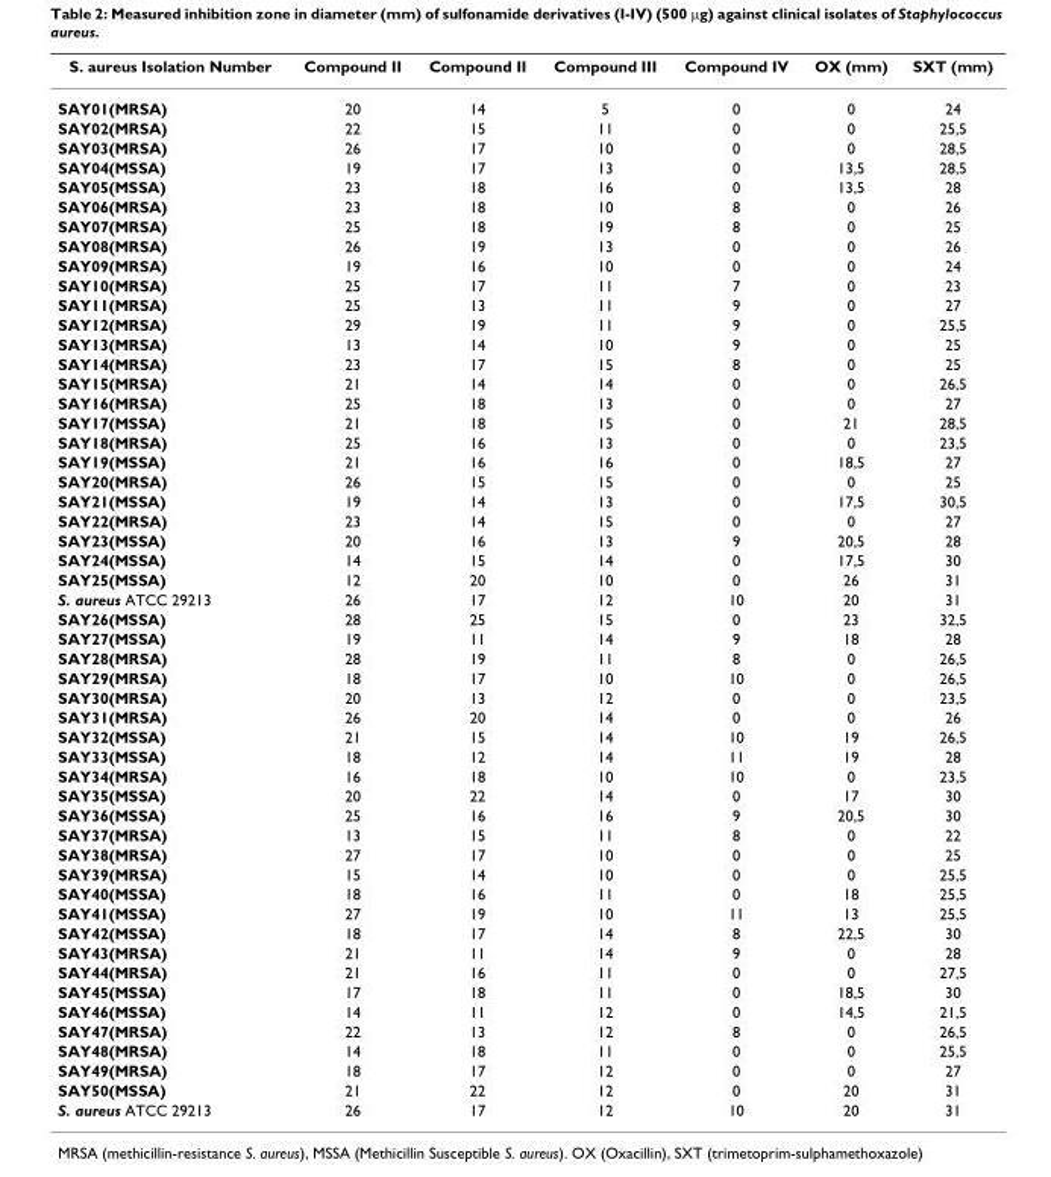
<table><thead><tr><td>S. aureus Isolation Number</td><td>Compound II</td><td>Compound II</td><td>Compound III</td><td>Compound IV</td><td>OX (mm)</td><td>SXT (mm)</td></tr></thead><tbody><tr><td>SAY01(MRSA)</td><td>20</td><td>14</td><td>5</td><td>0</td><td>0</td><td>24</td></tr><tr><td>SAY02(MRSA)</td><td>22</td><td>15</td><td>11</td><td>0</td><td>0</td><td>25,5</td></tr><tr><td>SAY03(MRSA)</td><td>26</td><td>17</td><td>10</td><td>0</td><td>0</td><td>28,5</td></tr><tr><td>SAY04(MSSA)</td><td>19</td><td>17</td><td>13</td><td>0</td><td>13,5</td><td>28,5</td></tr><tr><td>SAY05(MSSA)</td><td>23</td><td>18</td><td>16</td><td>0</td><td>13,5</td><td>28</td></tr><tr><td>SAY06(MRSA)</td><td>23</td><td>18</td><td>10</td><td>8</td><td>0</td><td>26</td></tr><tr><td>SAY07(MRSA)</td><td>25</td><td>18</td><td>19</td><td>8</td><td>0</td><td>25</td></tr><tr><td>SAY08(MRSA)</td><td>26</td><td>19</td><td>13</td><td>0</td><td>0</td><td>26</td></tr><tr><td>SAY09(MRSA)</td><td>19</td><td>16</td><td>10</td><td>0</td><td>0</td><td>24</td></tr><tr><td>SAY10(MRSA)</td><td>25</td><td>17</td><td>11</td><td>7</td><td>0</td><td>23</td></tr><tr><td>SAY11(MRSA)</td><td>25</td><td>13</td><td>11</td><td>9</td><td>0</td><td>27</td></tr><tr><td>SAY12(MRSA)</td><td>29</td><td>19</td><td>11</td><td>9</td><td>0</td><td>25,5</td></tr><tr><td>SAY13(MRSA)</td><td>13</td><td>14</td><td>10</td><td>9</td><td>0</td><td>25</td></tr><tr><td>SAY14(MRSA)</td><td>23</td><td>17</td><td>15</td><td>8</td><td>0</td><td>25</td></tr><tr><td>SAY15(MRSA)</td><td>21</td><td>14</td><td>14</td><td>0</td><td>0</td><td>26,5</td></tr><tr><td>SAY16(MRSA)</td><td>25</td><td>18</td><td>13</td><td>0</td><td>0</td><td>27</td></tr><tr><td>SAY17(MSSA)</td><td>21</td><td>18</td><td>15</td><td>0</td><td>21</td><td>28,5</td></tr><tr><td>SAY18(MRSA)</td><td>25</td><td>16</td><td>13</td><td>0</td><td>0</td><td>23,5</td></tr><tr><td>SAY19(MSSA)</td><td>21</td><td>16</td><td>16</td><td>0</td><td>18,5</td><td>27</td></tr><tr><td>SAY20(MRSA)</td><td>26</td><td>15</td><td>15</td><td>0</td><td>0</td><td>25</td></tr><tr><td>SAY21(MSSA)</td><td>19</td><td>14</td><td>13</td><td>0</td><td>17,5</td><td>30,5</td></tr><tr><td>SAY22(MRSA)</td><td>23</td><td>14</td><td>15</td><td>0</td><td>0</td><td>27</td></tr><tr><td>SAY23(MSSA)</td><td>20</td><td>16</td><td>13</td><td>9</td><td>20,5</td><td>28</td></tr><tr><td>SAY24(MSSA)</td><td>14</td><td>15</td><td>14</td><td>0</td><td>17,5</td><td>30</td></tr><tr><td>SAY25(MSSA)</td><td>12</td><td>20</td><td>10</td><td>0</td><td>26</td><td>31</td></tr><tr><td>S. aureus ATCC 29213</td><td>26</td><td>17</td><td>12</td><td>10</td><td>20</td><td>31</td></tr><tr><td>SAY26(MSSA)</td><td>28</td><td>25</td><td>15</td><td>0</td><td>23</td><td>32,5</td></tr><tr><td>SAY27(MSSA)</td><td>19</td><td>11</td><td>14</td><td>9</td><td>18</td><td>28</td></tr><tr><td>SAY28(MRSA)</td><td>28</td><td>19</td><td>11</td><td>8</td><td>0</td><td>26,5</td></tr><tr><td>SAY29(MRSA)</td><td>18</td><td>17</td><td>10</td><td>10</td><td>0</td><td>26,5</td></tr><tr><td>SAY30(MRSA)</td><td>20</td><td>13</td><td>12</td><td>0</td><td>0</td><td>23,5</td></tr><tr><td>SAY31(MRSA)</td><td>26</td><td>20</td><td>14</td><td>0</td><td>0</td><td>26</td></tr><tr><td>SAY32(MSSA)</td><td>21</td><td>15</td><td>14</td><td>10</td><td>19</td><td>26,5</td></tr><tr><td>SAY33(MSSA)</td><td>18</td><td>12</td><td>14</td><td>11</td><td>19</td><td>28</td></tr><tr><td>SAY34(MRSA)</td><td>16</td><td>18</td><td>10</td><td>10</td><td>0</td><td>23,5</td></tr><tr><td>SAY35(MSSA)</td><td>20</td><td>22</td><td>14</td><td>0</td><td>17</td><td>30</td></tr><tr><td>SAY36(MSSA)</td><td>25</td><td>16</td><td>16</td><td>9</td><td>20,5</td><td>30</td></tr><tr><td>SAY37(MRSA)</td><td>13</td><td>15</td><td>11</td><td>8</td><td>0</td><td>22</td></tr><tr><td>SAY38(MRSA)</td><td>27</td><td>17</td><td>10</td><td>0</td><td>0</td><td>25</td></tr><tr><td>SAY39(MRSA)</td><td>15</td><td>14</td><td>10</td><td>0</td><td>0</td><td>25,5</td></tr><tr><td>SAY40(MSSA)</td><td>18</td><td>16</td><td>11</td><td>0</td><td>18</td><td>25,5</td></tr><tr><td>SAY41(MSSA)</td><td>27</td><td>19</td><td>10</td><td>11</td><td>13</td><td>25,5</td></tr><tr><td>SAY42(MSSA)</td><td>18</td><td>17</td><td>14</td><td>8</td><td>22,5</td><td>30</td></tr><tr><td>SAY43(MRSA)</td><td>21</td><td>11</td><td>14</td><td>9</td><td>0</td><td>28</td></tr><tr><td>SAY44(MRSA)</td><td>21</td><td>16</td><td>11</td><td>0</td><td>0</td><td>27,5</td></tr><tr><td>SAY45(MSSA)</td><td>17</td><td>18</td><td>11</td><td>0</td><td>18,5</td><td>30</td></tr><tr><td>SAY46(MSSA)</td><td>14</td><td>11</td><td>12</td><td>0</td><td>14,5</td><td>21,5</td></tr><tr><td>SAY47(MRSA)</td><td>22</td><td>13</td><td>12</td><td>8</td><td>0</td><td>26,5</td></tr><tr><td>SAY48(MRSA)</td><td>14</td><td>18</td><td>11</td><td>0</td><td>0</td><td>25,5</td></tr><tr><td>SAY49(MRSA)</td><td>18</td><td>17</td><td>12</td><td>0</td><td>0</td><td>27</td></tr><tr><td>SAY50(MSSA)</td><td>21</td><td>22</td><td>12</td><td>0</td><td>20</td><td>31</td></tr><tr><td>S. aureus ATCC 29213</td><td>26</td><td>17</td><td>12</td><td>10</td><td>20</td><td>31</td></tr></tbody></table>